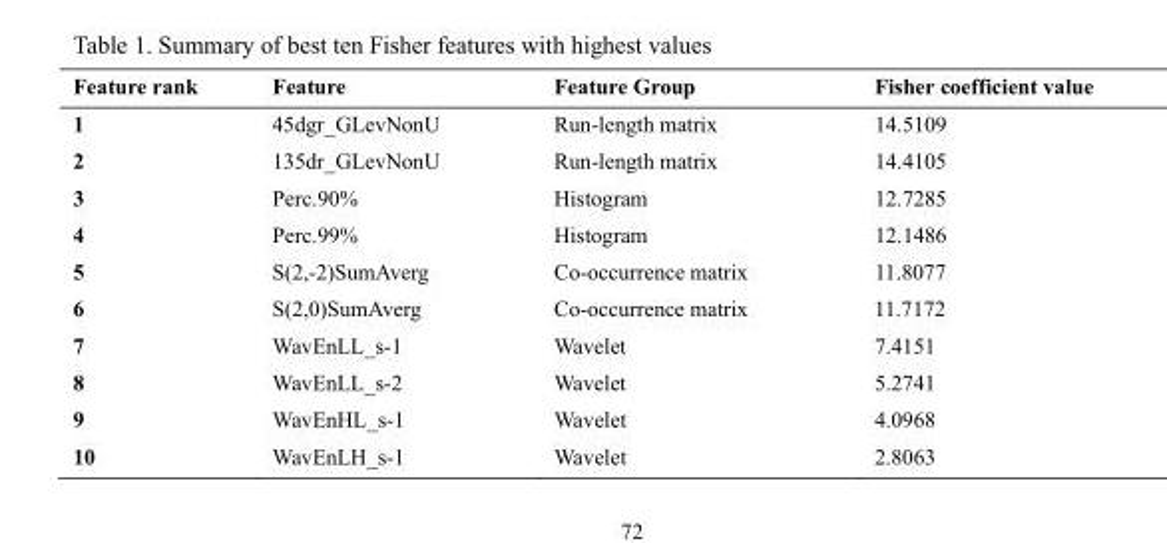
<table><thead><tr><td>Feature rank</td><td>Feature</td><td>Feature Group</td><td>Fisher coefficient value</td></tr></thead><tbody><tr><td>1</td><td>45dgr_GLevNonU</td><td>Run-length matrix</td><td>14.5109</td></tr><tr><td>2</td><td>135dr_GLevNonU</td><td>Run-length matrix</td><td>14.4105</td></tr><tr><td>3</td><td>Perc.90%</td><td>Histogram</td><td>12.7285</td></tr><tr><td>4</td><td>Perc.99%</td><td>Histogram</td><td>12.1486</td></tr><tr><td>5</td><td>S(2,-2)SumAverg</td><td>Co-occurrence matrix</td><td>11.8077</td></tr><tr><td>6</td><td>S(2,0)SumAverg</td><td>Co-occurrence matrix</td><td>11.7172</td></tr><tr><td>7</td><td>WavEnLL_s-1</td><td>Wavelet</td><td>7.4151</td></tr><tr><td>8</td><td>WavEnLL_s-2</td><td>Wavelet</td><td>5.2741</td></tr><tr><td>9</td><td>WavEnHL_s-1</td><td>Wavelet</td><td>4.0968</td></tr><tr><td>10</td><td>WavEnLH_s-1</td><td>Wavelet</td><td>2.8063</td></tr></tbody></table>